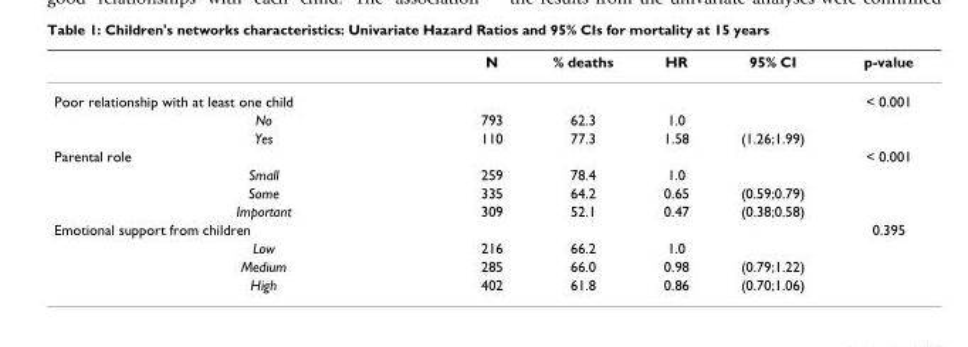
<table><thead><tr><td></td><td>N</td><td>% deaths</td><td>HR</td><td>95% CI</td><td>p-value</td></tr></thead><tbody><tr><td>Poor relationship with at least one child</td><td></td><td></td><td></td><td></td><td>&lt; 0.001</td></tr><tr><td>No</td><td>793</td><td>62.3</td><td>1.0</td><td></td><td></td></tr><tr><td>Yes</td><td>110</td><td>77.3</td><td>1.58</td><td>(1.26;1.99)</td><td></td></tr><tr><td>Parental role</td><td></td><td></td><td></td><td></td><td>&lt; 0.001</td></tr><tr><td>Small</td><td>259</td><td>78.4</td><td>1.0</td><td></td><td></td></tr><tr><td>Some</td><td>335</td><td>64.2</td><td>0.65</td><td>(0.59;0.79)</td><td></td></tr><tr><td>Important</td><td>309</td><td>52.1</td><td>0.47</td><td>(0.38;0.58)</td><td></td></tr><tr><td>Emotional support from children</td><td></td><td></td><td></td><td></td><td>0.395</td></tr><tr><td>Low</td><td>216</td><td>66.2</td><td>1.0</td><td></td><td></td></tr><tr><td>Medium</td><td>285</td><td>66.0</td><td>0.98</td><td>(0.79;1.22)</td><td></td></tr><tr><td>High</td><td>402</td><td>61.8</td><td>0.86</td><td>(0.70;1.06)</td><td></td></tr></tbody></table>